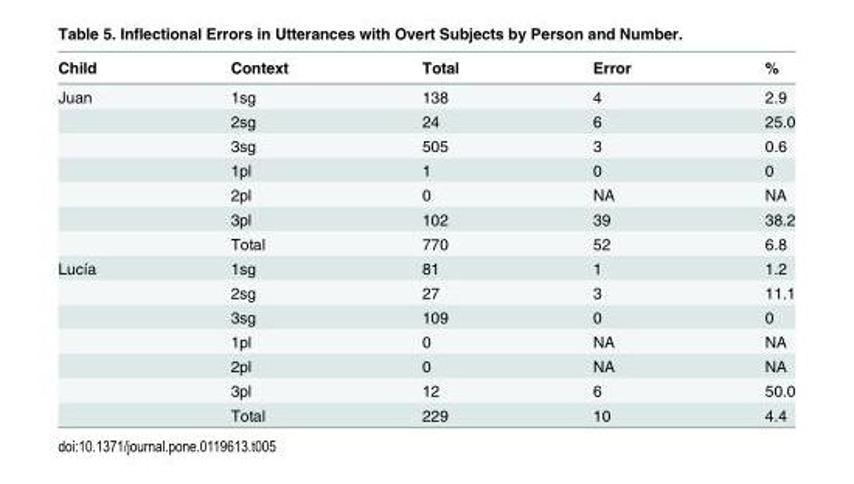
<table><thead><tr><td>Child</td><td>Context</td><td>Total</td><td>Error</td><td>%</td></tr></thead><tbody><tr><td rowspan="7">Juan</td><td>1sg</td><td>138</td><td>4</td><td>2.9</td></tr><tr><td>2sg</td><td>24</td><td>6</td><td>25.0</td></tr><tr><td>3sg</td><td>505</td><td>3</td><td>0.6</td></tr><tr><td>1pl</td><td>1</td><td>0</td><td>0</td></tr><tr><td>2pl</td><td>0</td><td>NA</td><td>NA</td></tr><tr><td>3pl</td><td>102</td><td>39</td><td>38.2</td></tr><tr><td>Total</td><td>770</td><td>52</td><td>6.8</td></tr><tr><td rowspan="7">Lucía</td><td>1sg</td><td>81</td><td>1</td><td>1.2</td></tr><tr><td>2sg</td><td>27</td><td>3</td><td>11.1</td></tr><tr><td>3sg</td><td>109</td><td>0</td><td>0</td></tr><tr><td>1pl</td><td>0</td><td>NA</td><td>NA</td></tr><tr><td>2pl</td><td>0</td><td>NA</td><td>NA</td></tr><tr><td>3pl</td><td>12</td><td>6</td><td>50.0</td></tr><tr><td>Total</td><td>229</td><td>10</td><td>4.4</td></tr></tbody></table>